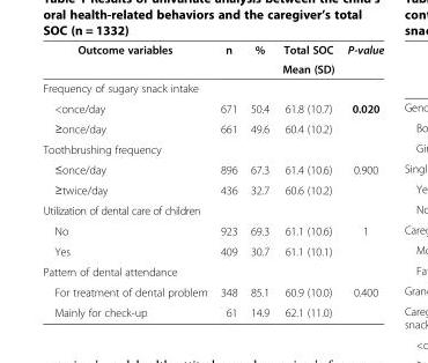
<table><thead><tr><td rowspan="2">Outcome variables</td><td rowspan="2">n</td><td rowspan="2">%</td><td rowspan="2">Total SOC Mean (SD)</td><td rowspan="2">P-value</td></tr><tr></tr></thead><tbody><tr><td colspan="5">Frequency of sugary snack intake</td></tr><tr><td>&lt;once/day</td><td>671</td><td>50.4</td><td>61.8 (10.7)</td><td>0.020</td></tr><tr><td>≥once/day</td><td>661</td><td>49.6</td><td>60.4 (10.2)</td><td></td></tr><tr><td colspan="5">Toothbrushing frequency</td></tr><tr><td>≤once/day</td><td>896</td><td>67.3</td><td>61.4 (10.6)</td><td>0.900</td></tr><tr><td>≥twice/day</td><td>436</td><td>32.7</td><td>60.6 (10.2)</td><td></td></tr><tr><td colspan="5">Utilization of dental care of children</td></tr><tr><td>No</td><td>923</td><td>69.3</td><td>61.1 (10.6)</td><td>1</td></tr><tr><td>Yes</td><td>409</td><td>30.7</td><td>61.1 (10.1)</td><td></td></tr><tr><td colspan="5">Pattern of dental attendance</td></tr><tr><td>For treatment of dental problem</td><td>348</td><td>85.1</td><td>60.9 (10.0)</td><td>0.400</td></tr><tr><td>Mainly for check-up</td><td>61</td><td>14.9</td><td>62.1 (11.0)</td><td></td></tr></tbody></table>